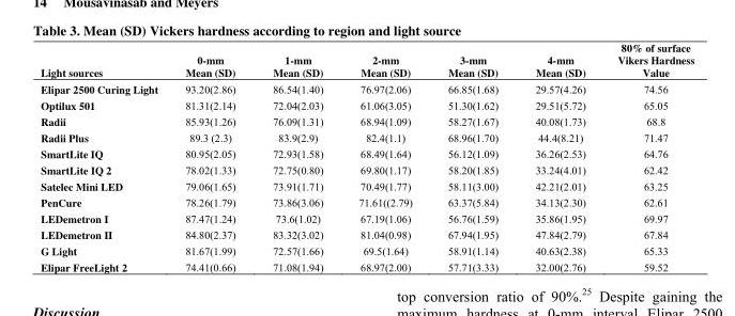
<table><tbody><tr><td>Light sources</td><td>0-mm Mean (SD)</td><td>1-mm Mean (SD)</td><td>2-mm Mean (SD)</td><td>3-mm Mean (SD)</td><td>4-mm Mean (SD)</td><td>80% of surface Vikers Hardness Value</td></tr><tr><td>Elipar 2500 Curing Light</td><td>93.20(2.86)</td><td>86.54(1.40)</td><td>76.97(2.06)</td><td>66.85(1.68)</td><td>29.57(4.26)</td><td>74.56</td></tr><tr><td>Optilux 501</td><td>81.31(2.14)</td><td>72.04(2.03)</td><td>61.06(3.05)</td><td>51.30(1.62)</td><td>29.51(5.72)</td><td>65.05</td></tr><tr><td>Radii</td><td>85.93(1.26)</td><td>76.09(1.31)</td><td>68.94(1.09)</td><td>58.27(1.67)</td><td>40.08(1.73)</td><td>68.8</td></tr><tr><td>Radii Plus</td><td>89.3 (2.3)</td><td>83.9(2.9)</td><td>82.4(1.1)</td><td>68.96(1.70)</td><td>44.4(8.21)</td><td>71.47</td></tr><tr><td>SmartLite IQ</td><td>80.95(2.05)</td><td>72.93(1.58)</td><td>68.49(1.64)</td><td>56.12(1.09)</td><td>36.26(2.53)</td><td>64.76</td></tr><tr><td>SmartLite IQ 2</td><td>78.02(1.33)</td><td>72.75(0.80)</td><td>69.80(1.17)</td><td>58.20(1.85)</td><td>33.24(4.01)</td><td>62.42</td></tr><tr><td>Satelec Mini LED</td><td>79.06(1.65)</td><td>73.91(1.71)</td><td>70.49(1.77)</td><td>58.11(3.00)</td><td>42.21(2.01)</td><td>63.25</td></tr><tr><td>PenCure</td><td>78.26(1.79)</td><td>73.86(3.06)</td><td>71.61((2.79)</td><td>63.37(5.84)</td><td>34.13(2.30)</td><td>62.61</td></tr><tr><td>LEDemetron I</td><td>87.47(1.24)</td><td>73.6(1.02)</td><td>67.19(1.06)</td><td>56.76(1.59)</td><td>35.86(1.95)</td><td>69.97</td></tr><tr><td>LEDemetron II</td><td>84.80(2.37)</td><td>83.32(3.02)</td><td>81.04(0.98)</td><td>67.94(1.95)</td><td>47.84(2.79)</td><td>67.84</td></tr><tr><td>G Light</td><td>81.67(1.99)</td><td>72.57(1.66)</td><td>69.5(1.64)</td><td>58.91(1.14)</td><td>40.63(2.38)</td><td>65.33</td></tr><tr><td>Elipar FreeLight 2</td><td>74.41(0.66)</td><td>71.08(1.94)</td><td>68.97(2.00)</td><td>57.71(3.33)</td><td>32.00(2.76)</td><td>59.52</td></tr></tbody></table>